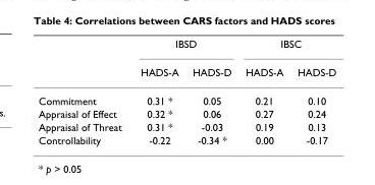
<table><thead><tr><td rowspan="2"></td><td colspan="2">IBSD</td><td colspan="2">IBSC</td></tr><tr><td>HADS-A</td><td>HADS-D</td><td>HADS-A</td><td>HADS-D</td></tr></thead><tbody><tr><td>Commitment</td><td>0.31 *</td><td>0.05</td><td>0.21</td><td>0.10</td></tr><tr><td>Appraisal of Effect</td><td>0.32 *</td><td>0.06</td><td>0.27</td><td>0.24</td></tr><tr><td>Appraisal of Threat</td><td>0.31 *</td><td>-0.03</td><td>0.19</td><td>0.13</td></tr><tr><td>Controllability</td><td>-0.22</td><td>-0.34 *</td><td>0.00</td><td>-0.17</td></tr></tbody></table>